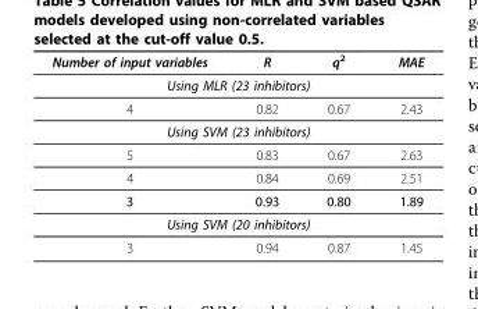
<table><thead><tr><td>Number of input variables</td><td>R</td><td>q2</td><td>MAE</td></tr></thead><tbody><tr><td colspan="4">Using MLR (23 inhibitors)</td></tr><tr><td>4</td><td>0.82</td><td>0.67</td><td>2.43</td></tr><tr><td colspan="4">Using SVM (23 inhibitors)</td></tr><tr><td>5</td><td>0.83</td><td>0.67</td><td>2.63</td></tr><tr><td>4</td><td>0.84</td><td>0.69</td><td>2.51</td></tr><tr><td>3</td><td>0.93</td><td>0.80</td><td>1.89</td></tr><tr><td colspan="4">Using SVM (20 inhibitors)</td></tr><tr><td>3</td><td>0.94</td><td>0.87</td><td>1.45</td></tr></tbody></table>